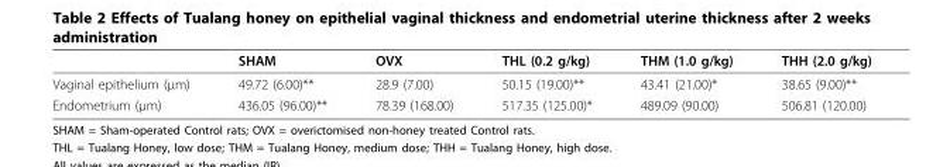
<table><thead><tr><td></td><td>SHAM</td><td>OVX</td><td>THL (0.2 g/kg)</td><td>THM (1.0 g/kg)</td><td>THH (2.0 g/kg)</td></tr></thead><tbody><tr><td>Vaginal epithelium (μm)</td><td>49.72 (6.00)**</td><td>28.9 (7.00)</td><td>50.15 (19.00)**</td><td>43.41 (21.00)*</td><td>38.65 (9.00)**</td></tr><tr><td>Endometrium (μm)</td><td>436.05 (96.00)**</td><td>78.39 (168.00)</td><td>517.35 (125.00)*</td><td>489.09 (90.00)</td><td>506.81 (120.00)</td></tr></tbody></table>